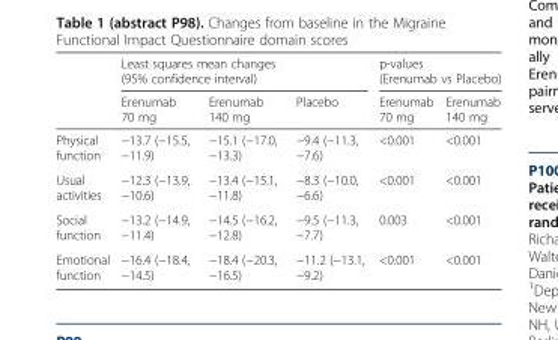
<table><thead><tr><td rowspan="2"></td><td colspan="3">Least squares mean changes (95% confidence interval)</td><td colspan="2">p-values (Erenumab vs Placebo)</td></tr><tr><td>Erenumab 70 mg</td><td>Erenumab 140 mg</td><td>Placebo</td><td>Erenumab 70 mg</td><td>Erenumab 140 mg</td></tr></thead><tbody><tr><td>Physical function</td><td>−13.7 (−15.5, −11.9)</td><td>−15.1 (−17.0, −13.3)</td><td>−9.4 (−11.3, −7.6)</td><td>&lt;0.001</td><td>&lt;0.001</td></tr><tr><td>Usual activities</td><td>−12.3 (−13.9, −10.6)</td><td>−13.4 (−15.1, −11.8)</td><td>−8.3 (−10.0, −6.6)</td><td>&lt;0.001</td><td>&lt;0.001</td></tr><tr><td>Social function</td><td>−13.2 (−14.9, −11.4)</td><td>−14.5 (−16.2, −12.8)</td><td>−9.5 (−11.3, −7.7)</td><td>0.003</td><td>&lt;0.001</td></tr><tr><td>Emotional function</td><td>−16.4 (−18.4, −14.5)</td><td>−18.4 (−20.3, −16.5)</td><td>−11.2 (−13.1, −9.2)</td><td>&lt;0.001</td><td>&lt;0.001</td></tr></tbody></table>